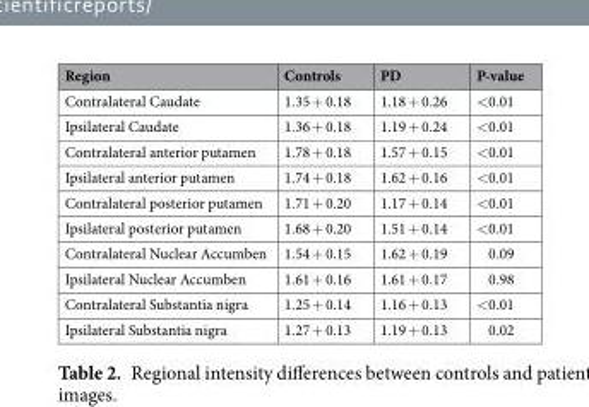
<table><thead><tr><td>Region</td><td>Controls</td><td>PD</td><td>P-value</td></tr></thead><tbody><tr><td>Contralateral Caudate</td><td>1.35 + 0.18</td><td>1.18 + 0.26</td><td>&lt;0.01</td></tr><tr><td>Ipsilateral Caudate</td><td>1.36 + 0.18</td><td>1.19 + 0.24</td><td>&lt;0.01</td></tr><tr><td>Contralateral anterior putamen</td><td>1.78 + 0.18</td><td>1.57 + 0.15</td><td>&lt;0.01</td></tr><tr><td>Ipsilateral anterior putamen</td><td>1.74 + 0.18</td><td>1.62 + 0.16</td><td>&lt;0.01</td></tr><tr><td>Contralateral posterior putamen</td><td>1.71 + 0.20</td><td>1.17 + 0.14</td><td>&lt;0.01</td></tr><tr><td>Ipsilateral posterior putamen</td><td>1.68 + 0.20</td><td>1.51 + 0.14</td><td>&lt;0.01</td></tr><tr><td>Contralateral Nuclear Accumben</td><td>1.54 + 0.15</td><td>1.62 + 0.19</td><td>0.09</td></tr><tr><td>Ipsilateral Nuclear Accumben</td><td>1.61 + 0.16</td><td>1.61 + 0.17</td><td>0.98</td></tr><tr><td>Contralateral Substantia nigra</td><td>1.25 + 0.14</td><td>1.16 + 0.13</td><td>&lt;0.01</td></tr><tr><td>Ipsilateral Substantia nigra</td><td>1.27 + 0.13</td><td>1.19 + 0.13</td><td>0.02</td></tr></tbody></table>